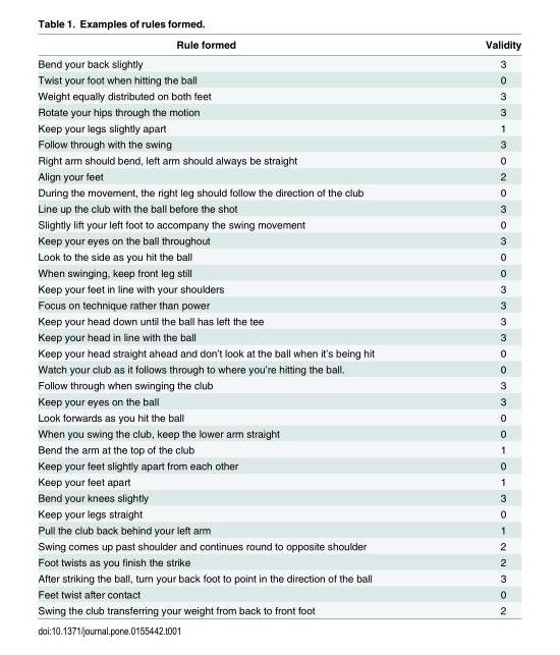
<table><thead><tr><td>Rule formed</td><td>Validity</td></tr></thead><tbody><tr><td>Bend your back slightly</td><td>3</td></tr><tr><td>Twist your foot when hitting the ball</td><td>0</td></tr><tr><td>Weight equally distributed on both feet</td><td>3</td></tr><tr><td>Rotate your hips through the motion</td><td>3</td></tr><tr><td>Keep your legs slightly apart</td><td>1</td></tr><tr><td>Follow through with the swing</td><td>3</td></tr><tr><td>Right arm should bend, left arm should always be straight</td><td>0</td></tr><tr><td>Align your feet</td><td>2</td></tr><tr><td>During the movement, the right leg should follow the direction of the club</td><td>0</td></tr><tr><td>Line up the club with the ball before the shot</td><td>3</td></tr><tr><td>Slightly lift your left foot to accompany the swing movement</td><td>0</td></tr><tr><td>Keep your eyes on the ball throughout</td><td>3</td></tr><tr><td>Look to the side as you hit the ball</td><td>0</td></tr><tr><td>When swinging, keep front leg still</td><td>0</td></tr><tr><td>Keep your feet in line with your shoulders</td><td>3</td></tr><tr><td>Focus on technique rather than power</td><td>3</td></tr><tr><td>Keep your head down until the ball has left the tee</td><td>3</td></tr><tr><td>Keep your head in line with the ball</td><td>3</td></tr><tr><td>Keep your head straight ahead and don’t look at the ball when it’s being hit</td><td>0</td></tr><tr><td>Watch your club as it follows through to where you’re hitting the ball.</td><td>0</td></tr><tr><td>Follow through when swinging the club</td><td>3</td></tr><tr><td>Keep your eyes on the ball</td><td>3</td></tr><tr><td>Look forwards as you hit the ball</td><td>0</td></tr><tr><td>When you swing the club, keep the lower arm straight</td><td>0</td></tr><tr><td>Bend the arm at the top of the club</td><td>1</td></tr><tr><td>Keep your feet slightly apart from each other</td><td>0</td></tr><tr><td>Keep your feet apart</td><td>1</td></tr><tr><td>Bend your knees slightly</td><td>3</td></tr><tr><td>Keep your legs straight</td><td>0</td></tr><tr><td>Pull the club back behind your left arm</td><td>1</td></tr><tr><td>Swing comes up past shoulder and continues round to opposite shoulder</td><td>2</td></tr><tr><td>Foot twists as you finish the strike</td><td>2</td></tr><tr><td>After striking the ball, turn your back foot to point in the direction of the ball</td><td>3</td></tr><tr><td>Feet twist after contact</td><td>0</td></tr><tr><td>Swing the club transferring your weight from back to front foot</td><td>2</td></tr></tbody></table>